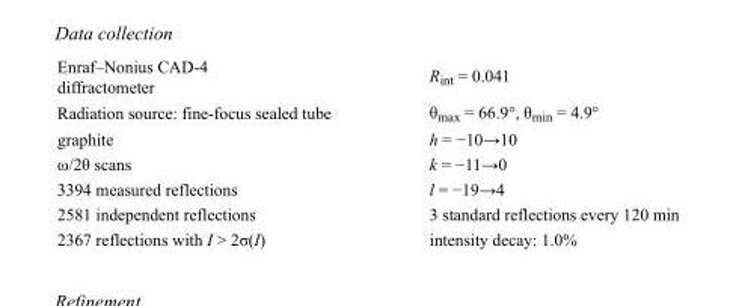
<table><tbody><tr><td>Enraf–Nonius CAD-4 diffractometer</td><td>R<sub>int</sub> = 0.041</td></tr><tr><td>Radiation source: fine-focus sealed tube</td><td>θ<sub>max</sub> = 66.9°, θ<sub>min</sub> = 4.9°</td></tr><tr><td>graphite</td><td>h = −10→10</td></tr><tr><td>ω/2θ scans</td><td>k = −11→0</td></tr><tr><td>3394 measured reflections</td><td>l = −19→4</td></tr><tr><td>2581 independent reflections</td><td>3 standard reflections every 120 min</td></tr><tr><td>2367 reflections with I &gt; 2σ(I)</td><td>intensity decay: 1.0%</td></tr></tbody></table>